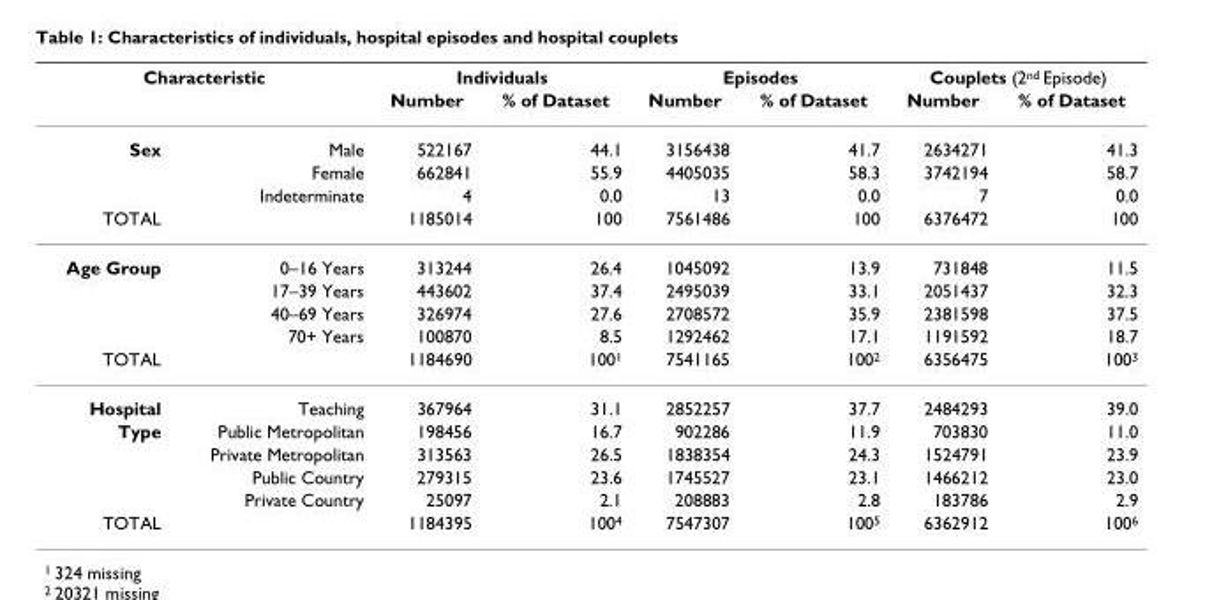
<table><thead><tr><td colspan="2">Characteristic</td><td colspan="2">Individuals</td><td colspan="2">Episodes</td><td colspan="2">Couplets (2<sup>nd</sup> Episode)</td></tr><tr><td></td><td></td><td>Number</td><td>% of Dataset</td><td>Number</td><td>% of Dataset</td><td>Number</td><td>% of Dataset</td></tr></thead><tbody><tr><td rowspan="3">Sex</td><td>Male</td><td>522167</td><td>44.1</td><td>3156438</td><td>41.7</td><td>2634271</td><td>41.3</td></tr><tr><td>Female</td><td>662841</td><td>55.9</td><td>4405035</td><td>58.3</td><td>3742194</td><td>58.7</td></tr><tr><td>Indeterminate</td><td>4</td><td>0.0</td><td>13</td><td>0.0</td><td>7</td><td>0.0</td></tr><tr><td>TOTAL</td><td></td><td>1185014</td><td>100</td><td>7561486</td><td>100</td><td>6376472</td><td>100</td></tr><tr><td rowspan="4">Age Group</td><td>0–16 Years</td><td>313244</td><td>26.4</td><td>1045092</td><td>13.9</td><td>731848</td><td>11.5</td></tr><tr><td>17–39 Years</td><td>443602</td><td>37.4</td><td>2495039</td><td>33.1</td><td>2051437</td><td>32.3</td></tr><tr><td>40–69 Years</td><td>326974</td><td>27.6</td><td>2708572</td><td>35.9</td><td>2381598</td><td>37.5</td></tr><tr><td>70+ Years</td><td>100870</td><td>8.5</td><td>1292462</td><td>17.1</td><td>1191592</td><td>18.7</td></tr><tr><td>TOTAL</td><td></td><td>1184690</td><td>100<sup>1</sup></td><td>7541165</td><td>100<sup>2</sup></td><td>6356475</td><td>100<sup>3</sup></td></tr><tr><td>Hospital</td><td>Teaching</td><td>367964</td><td>31.1</td><td>2852257</td><td>37.7</td><td>2484293</td><td>39.0</td></tr><tr><td rowspan="4">Type</td><td>Public Metropolitan</td><td>198456</td><td>16.7</td><td>902286</td><td>11.9</td><td>703830</td><td>11.0</td></tr><tr><td>Private Metropolitan</td><td>313563</td><td>26.5</td><td>1838354</td><td>24.3</td><td>1524791</td><td>23.9</td></tr><tr><td>Public Country</td><td>279315</td><td>23.6</td><td>1745527</td><td>23.1</td><td>1466212</td><td>23.0</td></tr><tr><td>Private Country</td><td>25097</td><td>2.1</td><td>208883</td><td>2.8</td><td>183786</td><td>2.9</td></tr><tr><td>TOTAL</td><td></td><td>1184395</td><td>100<sup>4</sup></td><td>7547307</td><td>100<sup>5</sup></td><td>6362912</td><td>100<sup>6</sup></td></tr></tbody></table>